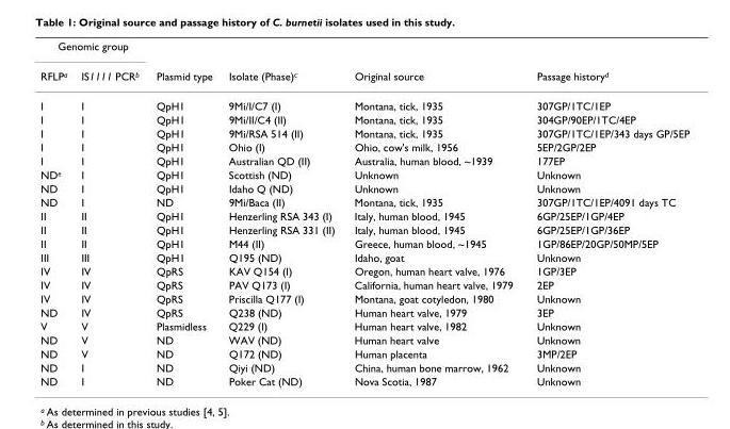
<table><thead><tr><td colspan="2">Genomic group</td><td rowspan="2">Plasmid type</td><td rowspan="2">Isolate (Phase)<sup>c</sup></td><td rowspan="2">Original source</td><td rowspan="2">Passage history<sup>d</sup></td></tr><tr><td>RFLP<sup>a</sup></td><td>IS1111 PCR<sup>b</sup></td></tr></thead><tbody><tr><td>I</td><td>I</td><td>QpH1</td><td>9Mi/I/C7 (I)</td><td>Montana, tick, 1935</td><td>307GP/1TC/1EP</td></tr><tr><td>I</td><td>I</td><td>QpH1</td><td>9Mi/II/C4 (II)</td><td>Montana, tick, 1935</td><td>304GP/90EP/1TC/4EP</td></tr><tr><td>I</td><td>I</td><td>QpH1</td><td>9Mi/RSA 514 (II)</td><td>Montana, tick, 1935</td><td>307GP/1TC/1EP/343 days GP/5EP</td></tr><tr><td>I</td><td>I</td><td>QpH1</td><td>Ohio (I)</td><td>Ohio, cow&#x27;s milk, 1956</td><td>5EP/2GP/2EP</td></tr><tr><td>I</td><td>I</td><td>QpH1</td><td>Australian QD (II)</td><td>Australia, human blood, ~1939</td><td>177EP</td></tr><tr><td>ND<sup>e</sup></td><td>I</td><td>QpH1</td><td>Scottish (ND)</td><td>Unknown</td><td>Unknown</td></tr><tr><td>ND</td><td>I</td><td>QpH1</td><td>Idaho Q (ND)</td><td>Unknown</td><td>Unknown</td></tr><tr><td>ND</td><td>I</td><td>ND</td><td>9Mi/Baca (II)</td><td>Montana, tick, 1935</td><td>307GP/1TC/1EP/4091 days TC</td></tr><tr><td>II</td><td>II</td><td>QpH1</td><td>Henzerling RSA 343 (I)</td><td>Italy, human blood, 1945</td><td>6GP/25EP/1GP/4EP</td></tr><tr><td>II</td><td>II</td><td>QpH1</td><td>Henzerling RSA 331 (II)</td><td>Italy, human blood, 1945</td><td>6GP/25EP/1GP/36EP</td></tr><tr><td>II</td><td>II</td><td>QpH1</td><td>M44 (II)</td><td>Greece, human blood, ~1945</td><td>1GP/86EP/20GP/50MP/5EP</td></tr><tr><td>III</td><td>III</td><td>QpH1</td><td>Q195 (ND)</td><td>Idaho, goat</td><td>Unknown</td></tr><tr><td>IV</td><td>IV</td><td>QpRS</td><td>KAV Q154 (I)</td><td>Oregon, human heart valve, 1976</td><td>1GP/3EP</td></tr><tr><td>IV</td><td>IV</td><td>QpRS</td><td>PAV Q173 (I)</td><td>California, human heart valve, 1979</td><td>2EP</td></tr><tr><td>IV</td><td>IV</td><td>QpRS</td><td>Priscilla Q177 (I)</td><td>Montana, goat cotyledon, 1980</td><td>Unknown</td></tr><tr><td>ND</td><td>IV</td><td>QpRS</td><td>Q238 (ND)</td><td>Human heart valve, 1979</td><td>3EP</td></tr><tr><td>V</td><td>V</td><td>Plasmidless</td><td>Q229 (I)</td><td>Human heart valve, 1982</td><td>Unknown</td></tr><tr><td>ND</td><td>V</td><td>ND</td><td>WAV (ND)</td><td>Human heart valve</td><td>Unknown</td></tr><tr><td>ND</td><td>V</td><td>ND</td><td>Q172 (ND)</td><td>Human placenta</td><td>3MP/2EP</td></tr><tr><td>ND</td><td>I</td><td>ND</td><td>Qiyi (ND)</td><td>China, human bone marrow, 1962</td><td>Unknown</td></tr><tr><td>ND</td><td>I</td><td>ND</td><td>Poker Cat (ND)</td><td>Nova Scotia, 1987</td><td>Unknown</td></tr></tbody></table>